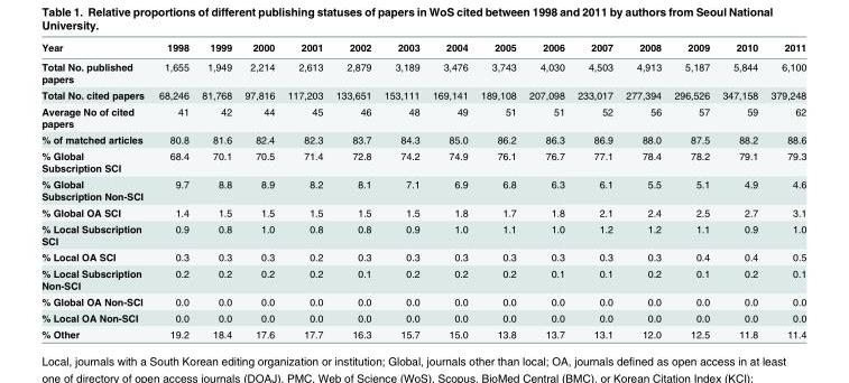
<table><thead><tr><td>Year</td><td>1998</td><td>1999</td><td>2000</td><td>2001</td><td>2002</td><td>2003</td><td>2004</td><td>2005</td><td>2006</td><td>2007</td><td>2008</td><td>2009</td><td>2010</td><td>2011</td></tr></thead><tbody><tr><td>Total No. published papers</td><td>1,655</td><td>1,949</td><td>2,214</td><td>2,613</td><td>2,879</td><td>3,189</td><td>3,476</td><td>3,743</td><td>4,030</td><td>4,503</td><td>4,913</td><td>5,187</td><td>5,844</td><td>6,100</td></tr><tr><td>Total No. cited papers</td><td>68,246</td><td>81,768</td><td>97,816</td><td>117,203</td><td>133,651</td><td>153,111</td><td>169,141</td><td>189,108</td><td>207,098</td><td>233,017</td><td>277,394</td><td>296,526</td><td>347,158</td><td>379,248</td></tr><tr><td>Average No of cited papers</td><td>41</td><td>42</td><td>44</td><td>45</td><td>46</td><td>48</td><td>49</td><td>51</td><td>51</td><td>52</td><td>56</td><td>57</td><td>59</td><td>62</td></tr><tr><td>% of matched articles</td><td>80.8</td><td>81.6</td><td>82.4</td><td>82.3</td><td>83.7</td><td>84.3</td><td>85.0</td><td>86.2</td><td>86.3</td><td>86.9</td><td>88.0</td><td>87.5</td><td>88.2</td><td>88.6</td></tr><tr><td>% Global Subscription SCI</td><td>68.4</td><td>70.1</td><td>70.5</td><td>71.4</td><td>72.8</td><td>74.2</td><td>74.9</td><td>76.1</td><td>76.7</td><td>77.1</td><td>78.4</td><td>78.2</td><td>79.1</td><td>79.3</td></tr><tr><td>% Global Subscription Non-SCI</td><td>9.7</td><td>8.8</td><td>8.9</td><td>8.2</td><td>8.1</td><td>7.1</td><td>6.9</td><td>6.8</td><td>6.3</td><td>6.1</td><td>5.5</td><td>5.1</td><td>4.9</td><td>4.6</td></tr><tr><td>% Global OA SCI</td><td>1.4</td><td>1.5</td><td>1.5</td><td>1.5</td><td>1.5</td><td>1.5</td><td>1.8</td><td>1.7</td><td>1.8</td><td>2.1</td><td>2.4</td><td>2.5</td><td>2.7</td><td>3.1</td></tr><tr><td>% Local Subscription SCI</td><td>0.9</td><td>0.8</td><td>1.0</td><td>0.8</td><td>0.8</td><td>0.9</td><td>1.0</td><td>1.1</td><td>1.0</td><td>1.2</td><td>1.2</td><td>1.1</td><td>0.9</td><td>1.0</td></tr><tr><td>% Local OA SCI</td><td>0.3</td><td>0.3</td><td>0.3</td><td>0.2</td><td>0.3</td><td>0.3</td><td>0.3</td><td>0.3</td><td>0.3</td><td>0.3</td><td>0.3</td><td>0.4</td><td>0.4</td><td>0.5</td></tr><tr><td>% Local Subscription Non-SCI</td><td>0.2</td><td>0.2</td><td>0.2</td><td>0.2</td><td>0.1</td><td>0.2</td><td>0.2</td><td>0.2</td><td>0.1</td><td>0.1</td><td>0.2</td><td>0.1</td><td>0.2</td><td>0.1</td></tr><tr><td>% Global OA Non-SCI</td><td>0.0</td><td>0.0</td><td>0.0</td><td>0.0</td><td>0.0</td><td>0.0</td><td>0.0</td><td>0.0</td><td>0.0</td><td>0.0</td><td>0.0</td><td>0.0</td><td>0.0</td><td>0.0</td></tr><tr><td>% Local OA Non-SCI</td><td>0.0</td><td>0.0</td><td>0.0</td><td>0.0</td><td>0.0</td><td>0.0</td><td>0.0</td><td>0.0</td><td>0.0</td><td>0.0</td><td>0.0</td><td>0.0</td><td>0.0</td><td>0.0</td></tr><tr><td>% Other</td><td>19.2</td><td>18.4</td><td>17.6</td><td>17.7</td><td>16.3</td><td>15.7</td><td>15.0</td><td>13.8</td><td>13.7</td><td>13.1</td><td>12.0</td><td>12.5</td><td>11.8</td><td>11.4</td></tr></tbody></table>